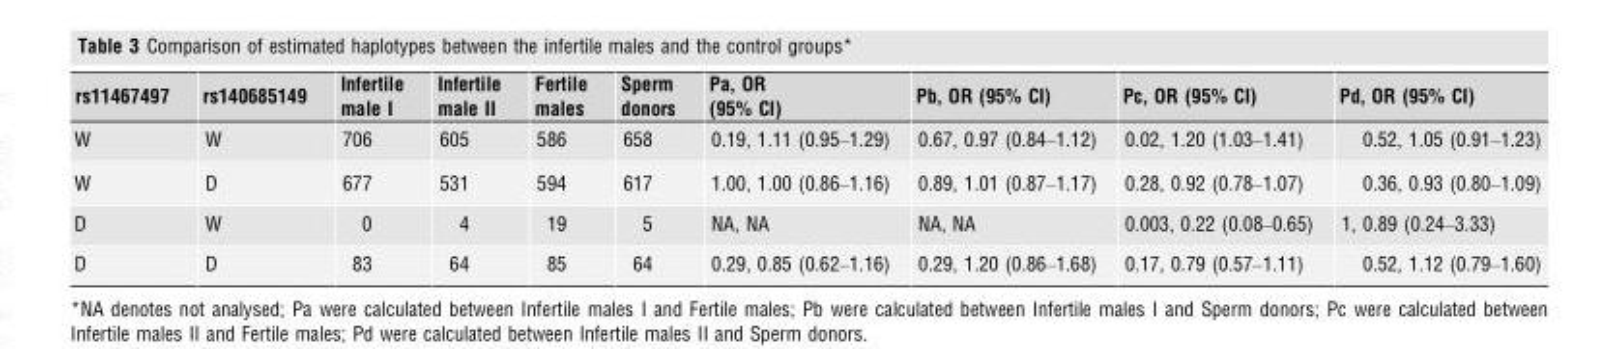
<table><thead><tr><td>rs11467497</td><td>rs140685149</td><td>Infertile male I</td><td>Infertile male II</td><td>Fertile males</td><td>Sperm donors</td><td>Pa, OR (95% CI)</td><td>Pb, OR (95% CI)</td><td>Pc, OR (95% CI)</td><td>Pd, OR (95% CI)</td></tr></thead><tbody><tr><td>W</td><td>W</td><td>706</td><td>605</td><td>586</td><td>658</td><td>0.19, 1.11 (0.95–1.29)</td><td>0.67, 0.97 (0.84–1.12)</td><td>0.02, 1.20 (1.03–1.41)</td><td>0.52, 1.05 (0.91–1.23)</td></tr><tr><td>W</td><td>D</td><td>677</td><td>531</td><td>594</td><td>617</td><td>1.00, 1.00 (0.86–1.16)</td><td>0.89, 1.01 (0.87–1.17)</td><td>0.28, 0.92 (0.78–1.07)</td><td>0.36, 0.93 (0.80–1.09)</td></tr><tr><td>D</td><td>W</td><td>0</td><td>4</td><td>19</td><td>5</td><td>NA, NA</td><td>NA, NA</td><td>0.003, 0.22 (0.08–0.65)</td><td>1, 0.89 (0.24–3.33)</td></tr><tr><td>D</td><td>D</td><td>83</td><td>64</td><td>85</td><td>64</td><td>0.29, 0.85 (0.62–1.16)</td><td>0.29, 1.20 (0.86–1.68)</td><td>0.17, 0.79 (0.57–1.11)</td><td>0.52, 1.12 (0.79–1.60)</td></tr></tbody></table>